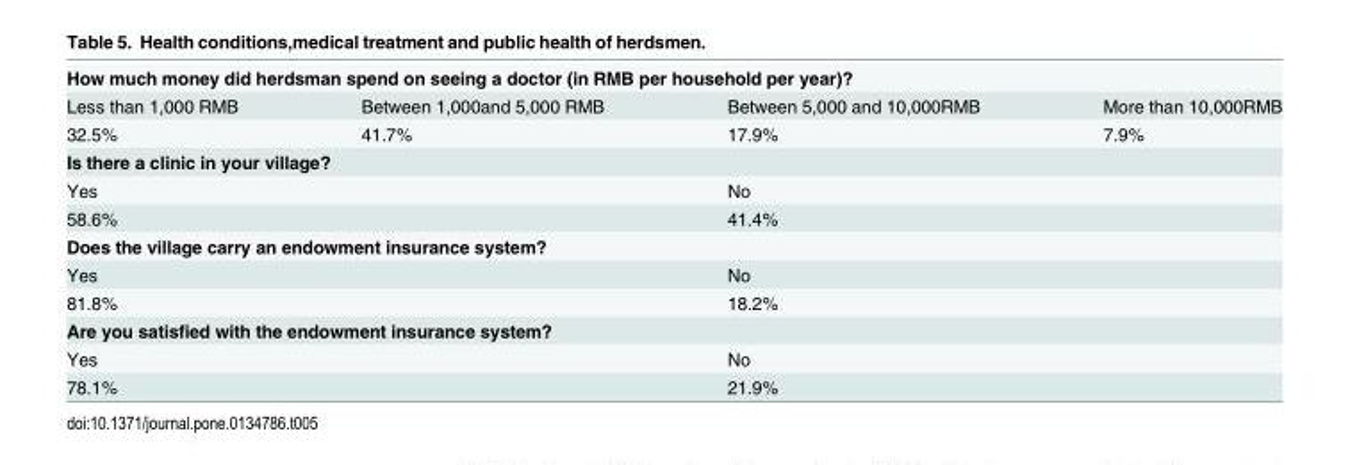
<table><tbody><tr><td colspan="4">How much money did herdsman spend on seeing a doctor (in RMB per household per year)?</td></tr><tr><td>Less than 1,000 RMB</td><td>Between 1,000and 5,000 RMB</td><td>Between 5,000 and 10,000RMB</td><td>More than 10,000RMB</td></tr><tr><td>32.5%</td><td>41.7%</td><td>17.9%</td><td>7.9%</td></tr><tr><td colspan="4">Is there a clinic in your village?</td></tr><tr><td colspan="2">Yes</td><td colspan="2">No</td></tr><tr><td colspan="2">58.6%</td><td colspan="2">41.4%</td></tr><tr><td colspan="4">Does the village carry an endowment insurance system?</td></tr><tr><td colspan="2">Yes</td><td colspan="2">No</td></tr><tr><td colspan="2">81.8%</td><td colspan="2">18.2%</td></tr><tr><td colspan="4">Are you satisfied with the endowment insurance system?</td></tr><tr><td colspan="2">Yes</td><td colspan="2">No</td></tr><tr><td colspan="2">78.1%</td><td colspan="2">21.9%</td></tr></tbody></table>